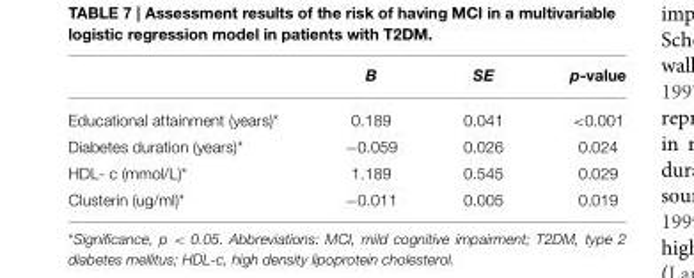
<table><thead><tr><td></td><td>B</td><td>SE</td><td>p-value</td></tr></thead><tbody><tr><td>Educational attainment (years)*</td><td>0.189</td><td>0.041</td><td>&lt;0.001</td></tr><tr><td>Diabetes duration (years)*</td><td>−0.059</td><td>0.026</td><td>0.024</td></tr><tr><td>HDL- c (mmol/L)*</td><td>1.189</td><td>0.545</td><td>0.029</td></tr><tr><td>Clusterin (ug/ml)*</td><td>−0.011</td><td>0.005</td><td>0.019</td></tr></tbody></table>